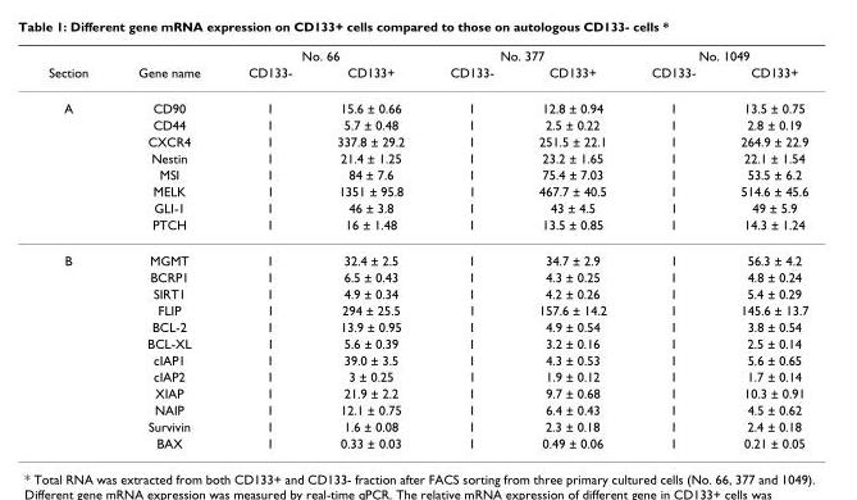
<table><thead><tr><td rowspan="2">Section</td><td rowspan="2">Gene name</td><td colspan="2">No. 66</td><td colspan="2">No. 377</td><td colspan="2">No. 1049</td></tr><tr><td>CD133-</td><td>CD133+</td><td>CD133-</td><td>CD133+</td><td>CD133-</td><td>CD133+</td></tr></thead><tbody><tr><td rowspan="8">A</td><td>CD90</td><td>1</td><td>15.6 ± 0.66</td><td>1</td><td>12.8 ± 0.94</td><td>1</td><td>13.5 ± 0.75</td></tr><tr><td>CD44</td><td>1</td><td>5.7 ± 0.48</td><td>1</td><td>2.5 ± 0.22</td><td>1</td><td>2.8 ± 0.19</td></tr><tr><td>CXCR4</td><td>1</td><td>337.8 ± 29.2</td><td>1</td><td>251.5 ± 22.1</td><td>1</td><td>264.9 ± 22.9</td></tr><tr><td>Nestin</td><td>1</td><td>21.4 ± 1.25</td><td>1</td><td>23.2 ± 1.65</td><td>1</td><td>22.1 ± 1.54</td></tr><tr><td>MSI</td><td>1</td><td>84 ± 7.6</td><td>1</td><td>75.4 ± 7.03</td><td>1</td><td>53.5 ± 6.2</td></tr><tr><td>MELK</td><td>1</td><td>1351 ± 95.8</td><td>1</td><td>467.7 ± 40.5</td><td>1</td><td>514.6 ± 45.6</td></tr><tr><td>GLI-1</td><td>1</td><td>46 ± 3.8</td><td>1</td><td>43 ± 4.5</td><td>1</td><td>49 ± 5.9</td></tr><tr><td>PTCH</td><td>1</td><td>16 ± 1.48</td><td>1</td><td>13.5 ± 0.85</td><td>1</td><td>14.3 ± 1.24</td></tr><tr><td rowspan="12">B</td><td>MGMT</td><td>1</td><td>32.4 ± 2.5</td><td>1</td><td>34.7 ± 2.9</td><td>1</td><td>56.3 ± 4.2</td></tr><tr><td>BCRP1</td><td>1</td><td>6.5 ± 0.43</td><td>1</td><td>4.3 ± 0.25</td><td>1</td><td>4.8 ± 0.24</td></tr><tr><td>SIRT1</td><td>1</td><td>4.9 ± 0.34</td><td>1</td><td>4.2 ± 0.26</td><td>1</td><td>5.4 ± 0.29</td></tr><tr><td>FLIP</td><td>1</td><td>294 ± 25.5</td><td>1</td><td>157.6 ± 14.2</td><td>1</td><td>145.6 ± 13.7</td></tr><tr><td>BCL-2</td><td>1</td><td>13.9 ± 0.95</td><td>1</td><td>4.9 ± 0.54</td><td>1</td><td>3.8 ± 0.54</td></tr><tr><td>BCL-XL</td><td>1</td><td>5.6 ± 0.39</td><td>1</td><td>3.2 ± 0.16</td><td>1</td><td>2.5 ± 0.14</td></tr><tr><td>cIAP1</td><td>1</td><td>39.0 ± 3.5</td><td>1</td><td>4.3 ± 0.53</td><td>1</td><td>5.6 ± 0.65</td></tr><tr><td>cIAP2</td><td>1</td><td>3 ± 0.25</td><td>1</td><td>1.9 ± 0.12</td><td>1</td><td>1.7 ± 0.14</td></tr><tr><td>XIAP</td><td>1</td><td>21.9 ± 2.2</td><td>1</td><td>9.7 ± 0.68</td><td>1</td><td>10.3 ± 0.91</td></tr><tr><td>NAIP</td><td>1</td><td>12.1 ± 0.75</td><td>1</td><td>6.4 ± 0.43</td><td>1</td><td>4.5 ± 0.62</td></tr><tr><td>Survivin</td><td>1</td><td>1.6 ± 0.08</td><td>1</td><td>2.3 ± 0.18</td><td>1</td><td>2.4 ± 0.18</td></tr><tr><td>BAX</td><td>1</td><td>0.33 ± 0.03</td><td>1</td><td>0.49 ± 0.06</td><td>1</td><td>0.21 ± 0.05</td></tr></tbody></table>